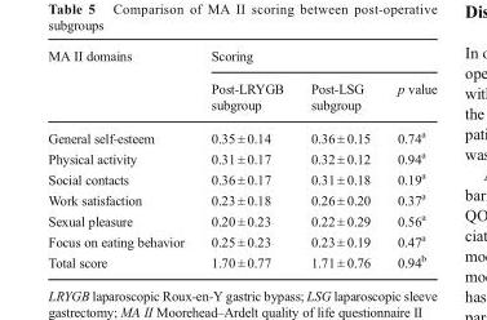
<table><thead><tr><td rowspan="2">MA II domains</td><td colspan="3">Scoring</td></tr><tr><td>Post-LRYGB subgroup</td><td>Post-LSG subgroup</td><td>p value</td></tr></thead><tbody><tr><td>General self-esteem</td><td>0.35 ± 0.14</td><td>0.36 ± 0.15</td><td>0.74<sup>a</sup></td></tr><tr><td>Physical activity</td><td>0.31 ± 0.17</td><td>0.32 ± 0.12</td><td>0.94<sup>a</sup></td></tr><tr><td>Social contacts</td><td>0.36 ± 0.17</td><td>0.31 ± 0.18</td><td>0.19<sup>a</sup></td></tr><tr><td>Work satisfaction</td><td>0.23 ± 0.18</td><td>0.26 ± 0.20</td><td>0.37<sup>a</sup></td></tr><tr><td>Sexual pleasure</td><td>0.20 ± 0.23</td><td>0.22 ± 0.29</td><td>0.56<sup>a</sup></td></tr><tr><td>Focus on eating behavior</td><td>0.25 ± 0.23</td><td>0.23 ± 0.19</td><td>0.47<sup>a</sup></td></tr><tr><td>Total score</td><td>1.70 ± 0.77</td><td>1.71 ± 0.76</td><td>0.94<sup>b</sup></td></tr></tbody></table>